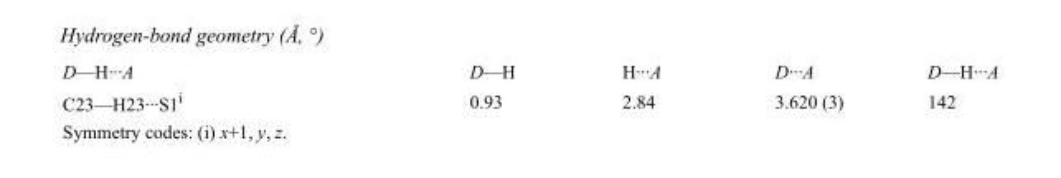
<table><tbody><tr><td>D—H···A</td><td>D—H</td><td>H···A</td><td>D···A</td><td>D—H···A</td></tr><tr><td>C23—H23···S1<sup>i</sup></td><td>0.93</td><td>2.84</td><td>3.620 (3)</td><td>142</td></tr></tbody></table>